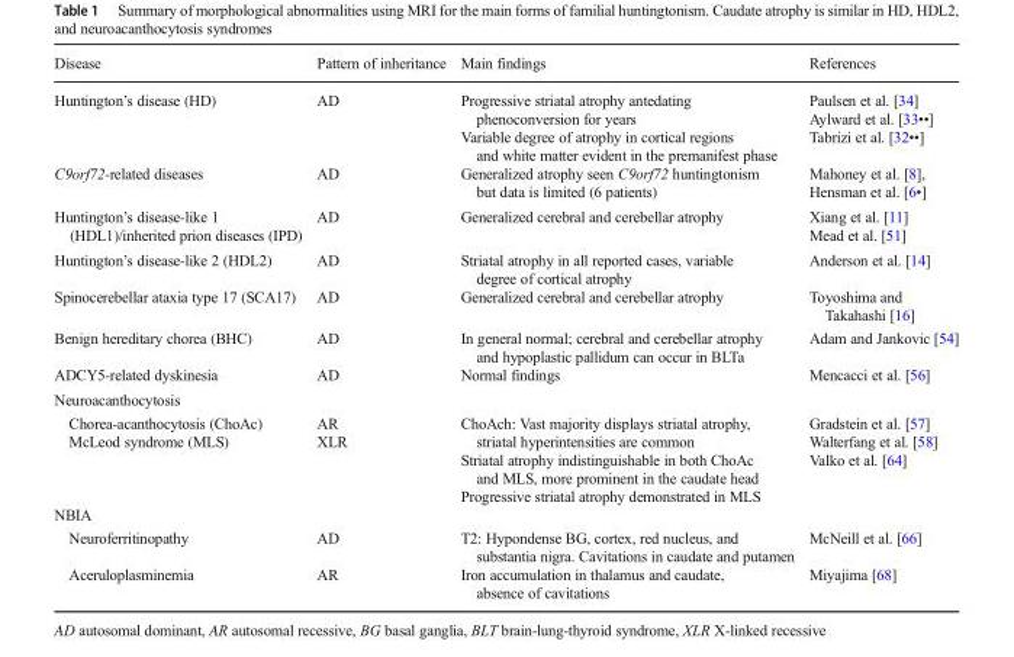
<table><thead><tr><td>Disease</td><td>Pattern of inheritance</td><td>Main findings</td><td>References</td></tr></thead><tbody><tr><td>Huntington’s disease (HD)</td><td>AD</td><td>Progressive striatal atrophy antedating phenoconversion for years Variable degree of atrophy in cortical regions and white matter evident in the premanifest phase</td><td>Paulsen et al. [34] Aylward et al. [33••] Tabrizi et al. [32••]</td></tr><tr><td>C9orf72-related diseases</td><td>AD</td><td>Generalized atrophy seen C9orf72 huntingtonism but data is limited (6 patients)</td><td>Mahoney et al. [8], Hensman et al. [6•]</td></tr><tr><td>Huntington’s disease-like 1 (HDL1)/inherited prion diseases (IPD)</td><td>AD</td><td>Generalized cerebral and cerebellar atrophy</td><td>Xiang et al. [11] Mead et al. [51]</td></tr><tr><td>Huntington’s disease-like 2 (HDL2)</td><td>AD</td><td>Striatal atrophy in all reported cases, variable degree of cortical atrophy</td><td>Anderson et al. [14]</td></tr><tr><td>Spinocerebellar ataxia type 17 (SCA17)</td><td>AD</td><td>Generalized cerebral and cerebellar atrophy</td><td>Toyoshima and Takahashi [16]</td></tr><tr><td>Benign hereditary chorea (BHC)</td><td>AD</td><td>In general normal; cerebral and cerebellar atrophy and hypoplastic pallidum can occur in BLTa</td><td>Adam and Jankovic [54]</td></tr><tr><td>ADCY5-related dyskinesia</td><td>AD</td><td>Normal findings</td><td>Mencacci et al. [56]</td></tr><tr><td colspan="4">Neuroacanthocytosis</td></tr><tr><td>Chorea-acanthocytosis (ChoAc)</td><td>AR</td><td rowspan="2">ChoAch: Vast majority displays striatal atrophy, striatal hyperintensities are common Striatal atrophy indistinguishable in both ChoAc and MLS, more prominent in the caudate head Progressive striatal atrophy demonstrated in MLS</td><td rowspan="2">Gradstein et al. [57] Walterfang et al. [58] Valko et al. [64]</td></tr><tr><td>McLeod syndrome (MLS)</td><td>XLR</td></tr><tr><td colspan="4">NBIA</td></tr><tr><td>Neuroferritinopathy</td><td>AD</td><td>T2: Hypondense BG, cortex, red nucleus, and substantia nigra. Cavitations in caudate and putamen</td><td>McNeill et al. [66]</td></tr><tr><td>Aceruloplasminemia</td><td>AR</td><td>Iron accumulation in thalamus and caudate, absence of cavitations</td><td>Miyajima [68]</td></tr></tbody></table>